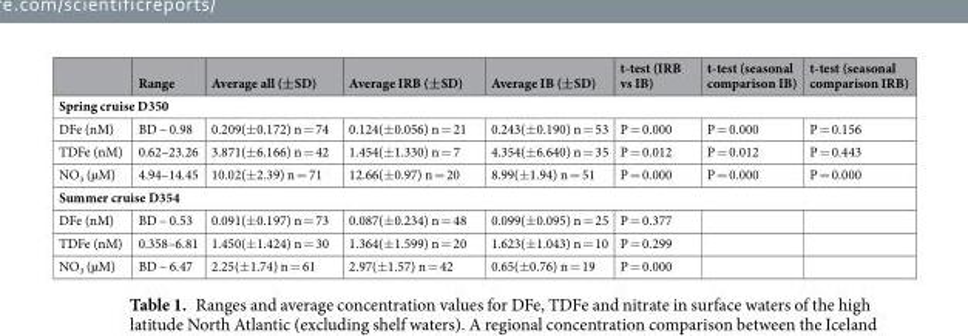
<table><thead><tr><td></td><td>Range</td><td>Average all (±SD)</td><td>Average IRB (±SD)</td><td>Average IB (±SD)</td><td>t-test (IRB vs IB)</td><td>t-test (seasonal comparison IB)</td><td>t-test (seasonal comparison IRB)</td></tr></thead><tbody><tr><td colspan="8">Spring cruise D350</td></tr><tr><td>DFe (nM)</td><td>BD – 0.98</td><td>0.209(±0.172) n = 74</td><td>0.124(±0.056) n = 21</td><td>0.243(±0.190) n = 53</td><td>P = 0.000</td><td>P = 0.000</td><td>P = 0.156</td></tr><tr><td>TDFe (nM)</td><td>0.62–23.26</td><td>3.871(±6.166) n = 42</td><td>1.454(±1.330) n = 7</td><td>4.354(±6.640) n = 35</td><td>P = 0.012</td><td>P = 0.012</td><td>P = 0.443</td></tr><tr><td>NO<sub>3</sub> (µM)</td><td>4.94–14.45</td><td>10.02(±2.39) n = 71</td><td>12.66(±0.97) n = 20</td><td>8.99(±1.94) n = 51</td><td>P = 0.000</td><td>P = 0.000</td><td>P = 0.000</td></tr><tr><td colspan="8">Summer cruise D354</td></tr><tr><td>DFe (nM)</td><td>BD – 0.53</td><td>0.091(±0.197) n = 73</td><td>0.087(±0.234) n = 48</td><td>0.099(±0.095) n = 25</td><td>P = 0.377</td><td></td><td></td></tr><tr><td>TDFe (nM)</td><td>0.358–6.81</td><td>1.450(±1.424) n = 30</td><td>1.364(±1.599) n = 20</td><td>1.623(±1.043) n = 10</td><td>P = 0.299</td><td></td><td></td></tr><tr><td>NO<sub>3</sub> (µM)</td><td>BD – 6.47</td><td>2.25(±1.74) n = 61</td><td>2.97(±1.57) n = 42</td><td>0.65(±0.76) n = 19</td><td>P = 0.000</td><td></td><td></td></tr></tbody></table>